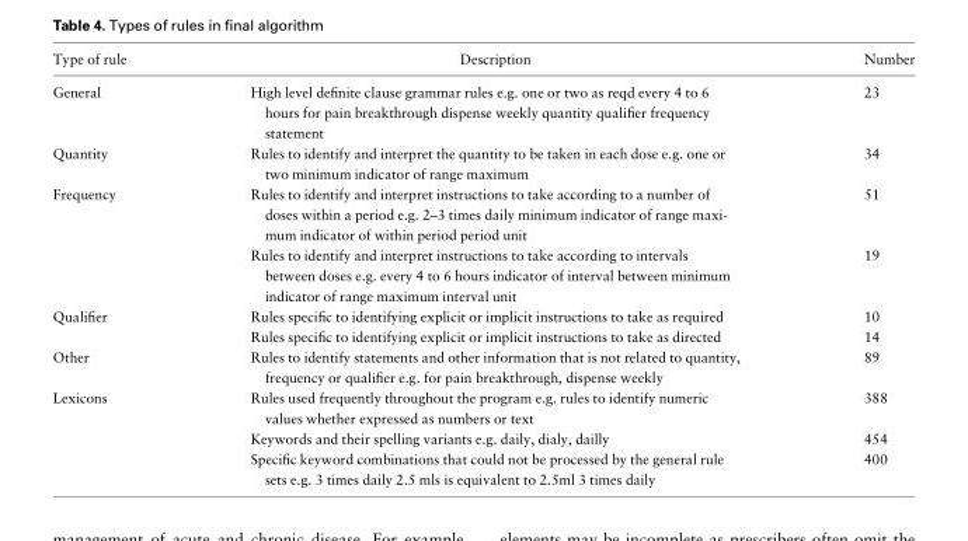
<table><thead><tr><td>Type of rule</td><td>Description</td><td>Number</td></tr></thead><tbody><tr><td>General</td><td>High level definite clause grammar rules e.g. one or two as reqd every 4 to 6 hours for pain breakthrough dispense weekly quantity qualifier frequency statement</td><td>23</td></tr><tr><td>Quantity</td><td>Rules to identify and interpret the quantity to be taken in each dose e.g. one or two minimum indicator of range maximum</td><td>34</td></tr><tr><td rowspan="2">Frequency</td><td>Rules to identify and interpret instructions to take according to a number of doses within a period e.g. 2–3 times daily minimum indicator of range maxi- mum indicator of within period period unit</td><td>51</td></tr><tr><td>Rules to identify and interpret instructions to take according to intervals between doses e.g. every 4 to 6 hours indicator of interval between minimum indicator of range maximum interval unit</td><td>19</td></tr><tr><td rowspan="2">Qualifier</td><td>Rules specific to identifying explicit or implicit instructions to take as required</td><td>10</td></tr><tr><td>Rules specific to identifying explicit or implicit instructions to take as directed</td><td>14</td></tr><tr><td>Other</td><td>Rules to identify statements and other information that is not related to quantity, frequency or qualifier e.g. for pain breakthrough, dispense weekly</td><td>89</td></tr><tr><td rowspan="3">Lexicons</td><td>Rules used frequently throughout the program e.g. rules to identify numeric values whether expressed as numbers or text</td><td>388</td></tr><tr><td>Keywords and their spelling variants e.g. daily, dialy, dailly</td><td>454</td></tr><tr><td>Specific keyword combinations that could not be processed by the general rule sets e.g. 3 times daily 2.5 mls is equivalent to 2.5ml 3 times daily</td><td>400</td></tr></tbody></table>